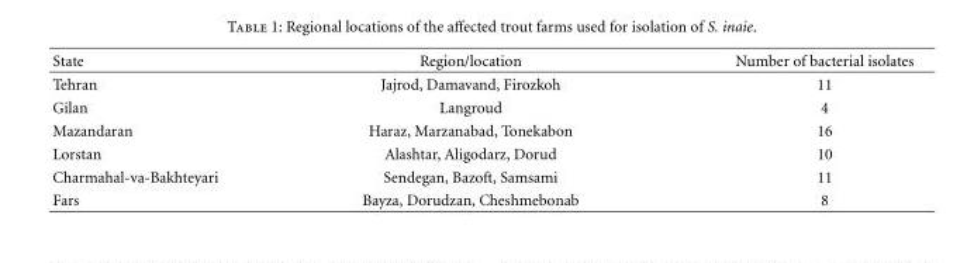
<table><thead><tr><td>State</td><td>Region/location</td><td>Number of bacterial isolates</td></tr></thead><tbody><tr><td>Tehran</td><td>Jajrod, Damavand, Firozkoh</td><td>11</td></tr><tr><td>Gilan</td><td>Langroud</td><td>4</td></tr><tr><td>Mazandaran</td><td>Haraz, Marzanabad, Tonekabon</td><td>16</td></tr><tr><td>Lorstan</td><td>Alashtar, Aligodarz, Dorud</td><td>10</td></tr><tr><td>Charmahal-va-Bakhteyari</td><td>Sendegan, Bazoft, Samsami</td><td>11</td></tr><tr><td>Fars</td><td>Bayza, Dorudzan, Cheshmebonab</td><td>8</td></tr></tbody></table>